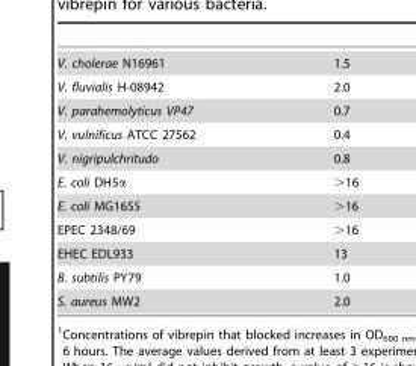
<table><tbody><tr><td>V. cholerae N16961</td><td>1.5</td></tr><tr><td>V. fluvialis H-08942</td><td>2.0</td></tr><tr><td>V. parahemolyticus VP47</td><td>0.7</td></tr><tr><td>V. vulnificus ATCC 27562</td><td>0.4</td></tr><tr><td>V. nigripulchritudo</td><td>0.8</td></tr><tr><td>E. coli DH5α</td><td>&gt;16</td></tr><tr><td>E. coli MG1655</td><td>&gt;16</td></tr><tr><td>EPEC 2348/69</td><td>&gt;16</td></tr><tr><td>EHEC EDL933</td><td>13</td></tr><tr><td>B. subtilis PY79</td><td>1.0</td></tr><tr><td>S. aureus MW2</td><td>2.0</td></tr></tbody></table>